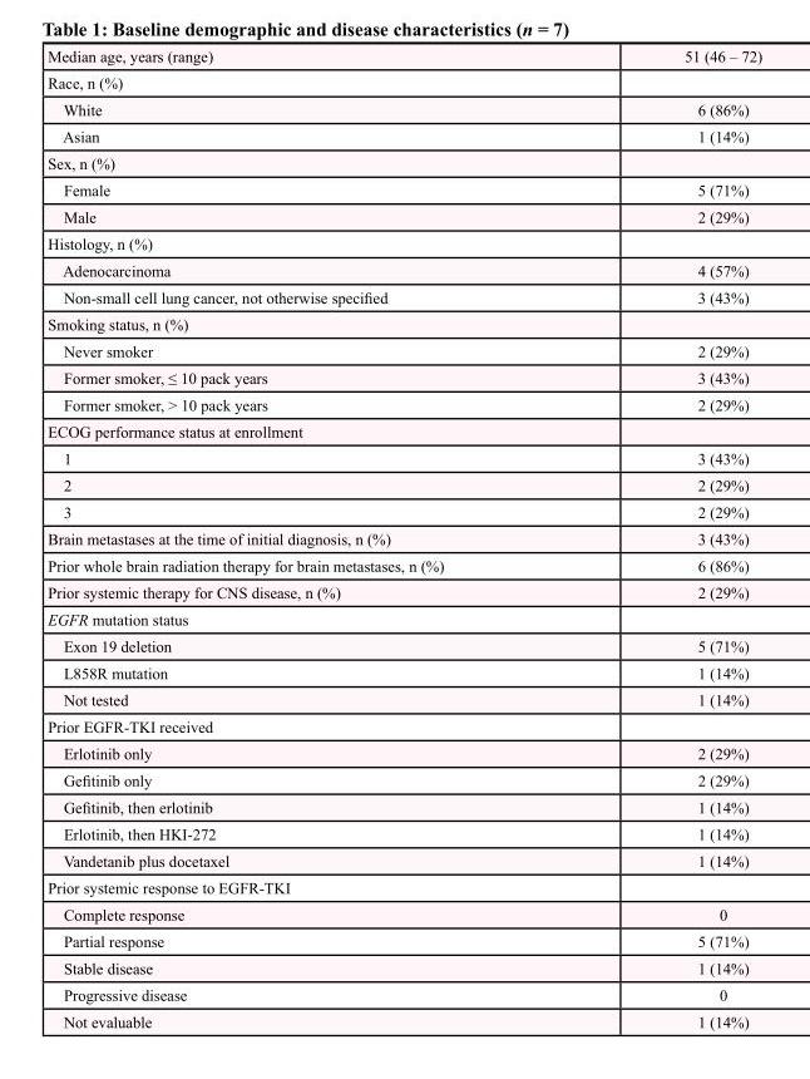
<table><tbody><tr><td>Median age, years (range)</td><td>51 (46 – 72)</td></tr><tr><td colspan="2">Race, n (%)</td></tr><tr><td>White</td><td>6 (86%)</td></tr><tr><td>Asian</td><td>1 (14%)</td></tr><tr><td colspan="2">Sex, n (%)</td></tr><tr><td>Female</td><td>5 (71%)</td></tr><tr><td>Male</td><td>2 (29%)</td></tr><tr><td colspan="2">Histology, n (%)</td></tr><tr><td>Adenocarcinoma</td><td>4 (57%)</td></tr><tr><td>Non-small cell lung cancer, not otherwise specified</td><td>3 (43%)</td></tr><tr><td colspan="2">Smoking status, n (%)</td></tr><tr><td>Never smoker</td><td>2 (29%)</td></tr><tr><td>Former smoker, ≤ 10 pack years</td><td>3 (43%)</td></tr><tr><td>Former smoker, &gt; 10 pack years</td><td>2 (29%)</td></tr><tr><td colspan="2">ECOG performance status at enrollment</td></tr><tr><td>1</td><td>3 (43%)</td></tr><tr><td>2</td><td>2 (29%)</td></tr><tr><td>3</td><td>2 (29%)</td></tr><tr><td>Brain metastases at the time of initial diagnosis, n (%)</td><td>3 (43%)</td></tr><tr><td>Prior whole brain radiation therapy for brain metastases, n (%)</td><td>6 (86%)</td></tr><tr><td>Prior systemic therapy for CNS disease, n (%)</td><td>2 (29%)</td></tr><tr><td colspan="2">EGFR mutation status</td></tr><tr><td>Exon 19 deletion</td><td>5 (71%)</td></tr><tr><td>L858R mutation</td><td>1 (14%)</td></tr><tr><td>Not tested</td><td>1 (14%)</td></tr><tr><td colspan="2">Prior EGFR-TKI received</td></tr><tr><td>Erlotinib only</td><td>2 (29%)</td></tr><tr><td>Gefitinib only</td><td>2 (29%)</td></tr><tr><td>Gefitinib, then erlotinib</td><td>1 (14%)</td></tr><tr><td>Erlotinib, then HKI-272</td><td>1 (14%)</td></tr><tr><td>Vandetanib plus docetaxel</td><td>1 (14%)</td></tr><tr><td colspan="2">Prior systemic response to EGFR-TKI</td></tr><tr><td>Complete response</td><td>0</td></tr><tr><td>Partial response</td><td>5 (71%)</td></tr><tr><td>Stable disease</td><td>1 (14%)</td></tr><tr><td>Progressive disease</td><td>0</td></tr><tr><td>Not evaluable</td><td>1 (14%)</td></tr></tbody></table>